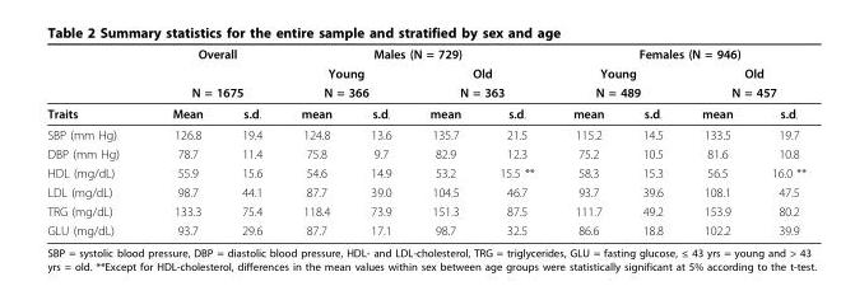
<table><thead><tr><td rowspan="4">Traits</td><td colspan="2">Overall</td><td colspan="4">Males (N = 729)</td><td colspan="4">Females (N = 946)</td></tr><tr><td></td><td></td><td rowspan="2" colspan="2">Young N = 366</td><td rowspan="2" colspan="2">Old N = 363</td><td rowspan="2" colspan="2">Young N = 489</td><td rowspan="2" colspan="2">Old N = 457</td></tr><tr><td colspan="2">N = 1675</td></tr><tr><td>Mean</td><td>s.d.</td><td>mean</td><td>s.d.</td><td>mean</td><td>s.d.</td><td>mean</td><td>s.d.</td><td>mean</td><td>s.d.</td></tr></thead><tbody><tr><td>SBP (mm Hg)</td><td>126.8</td><td>19.4</td><td>124.8</td><td>13.6</td><td>135.7</td><td>21.5</td><td>115.2</td><td>14.5</td><td>133.5</td><td>19.7</td></tr><tr><td>DBP (mm Hg)</td><td>78.7</td><td>11.4</td><td>75.8</td><td>9.7</td><td>82.9</td><td>12.3</td><td>75.2</td><td>10.5</td><td>81.6</td><td>10.8</td></tr><tr><td>HDL (mg/dL)</td><td>55.9</td><td>15.6</td><td>54.6</td><td>14.9</td><td>53.2</td><td>15.5 **</td><td>58.3</td><td>15.3</td><td>56.5</td><td>16.0 **</td></tr><tr><td>LDL (mg/dL)</td><td>98.7</td><td>44.1</td><td>87.7</td><td>39.0</td><td>104.5</td><td>46.7</td><td>93.7</td><td>39.6</td><td>108.1</td><td>47.5</td></tr><tr><td>TRG (mg/dL)</td><td>133.3</td><td>75.4</td><td>118.4</td><td>73.9</td><td>151.3</td><td>87.5</td><td>111.7</td><td>49.2</td><td>153.9</td><td>80.2</td></tr><tr><td>GLU (mg/dL)</td><td>93.7</td><td>29.6</td><td>87.7</td><td>17.1</td><td>98.7</td><td>32.5</td><td>86.6</td><td>18.8</td><td>102.2</td><td>39.9</td></tr></tbody></table>